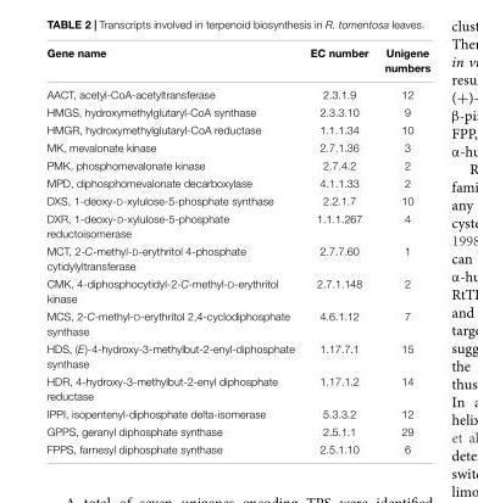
<table><thead><tr><td>Gene name</td><td>EC number</td><td>Unigene numbers</td></tr></thead><tbody><tr><td>AACT, acetyl-CoA-acetyltransferase</td><td>2.3.1.9</td><td>12</td></tr><tr><td>HMGS, hydroxymethylglutaryl-CoA synthase</td><td>2.3.3.10</td><td>9</td></tr><tr><td>HMGR, hydroxymethylglutaryl-CoA reductase</td><td>1.1.1.34</td><td>10</td></tr><tr><td>MK, mevalonate kinase</td><td>2.7.1.36</td><td>3</td></tr><tr><td>PMK, phosphomevalonate kinase</td><td>2.7.4.2</td><td>2</td></tr><tr><td>MPD, diphosphomevalonate decarboxylase</td><td>4.1.1.33</td><td>2</td></tr><tr><td>DXS, 1-deoxy-D-xylulose-5-phosphate synthase</td><td>2.2.1.7</td><td>10</td></tr><tr><td>DXR, 1-deoxy-D-xylulose-5-phosphate reductoisomerase</td><td>1.1.1.267</td><td>4</td></tr><tr><td>MCT, 2-C-methyl-D-erythritol 4-phosphate cytidylyltransferase</td><td>2.7.7.60</td><td>1</td></tr><tr><td>CMK, 4-diphosphocytidyl-2-C-methyl-D-erythritol kinase</td><td>2.7.1.148</td><td>2</td></tr><tr><td>MCS, 2-C-methyl-D-erythritol 2,4-cyclodiphosphate synthase</td><td>4.6.1.12</td><td>7</td></tr><tr><td>HDS, (E)-4-hydroxy-3-methylbut-2-enyl-diphosphate synthase</td><td>1.17.7.1</td><td>15</td></tr><tr><td>HDR, 4-hydroxy-3-methylbut-2-enyl diphosphate reductase</td><td>1.17.1.2</td><td>14</td></tr><tr><td>IPPI, isopentenyl-diphosphate delta-isomerase</td><td>5.3.3.2</td><td>12</td></tr><tr><td>GPPS, geranyl diphosphate synthase</td><td>2.5.1.1</td><td>29</td></tr><tr><td>FPPS, farnesyl diphosphate synthase</td><td>2.5.1.10</td><td>6</td></tr></tbody></table>